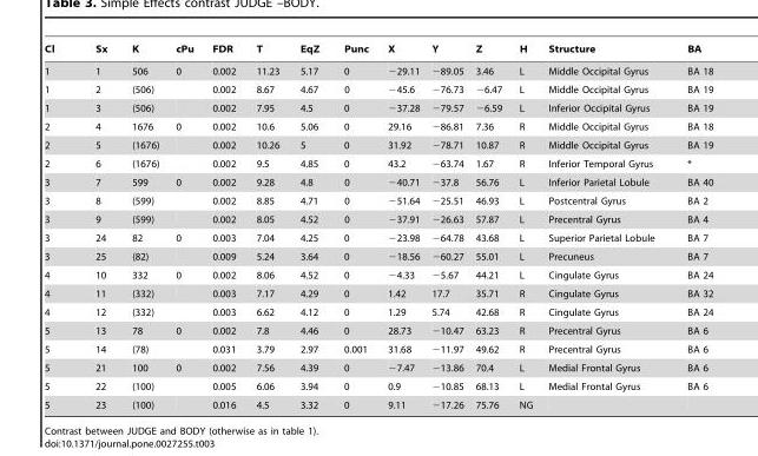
<table><thead><tr><td>Cl</td><td>Sx</td><td>K</td><td>cPu</td><td>FDR</td><td>T</td><td>EqZ</td><td>Punc</td><td>X</td><td>Y</td><td>Z</td><td>H</td><td>Structure</td><td>BA</td></tr></thead><tbody><tr><td>1</td><td>1</td><td>506</td><td>0</td><td>0.002</td><td>11.23</td><td>5.17</td><td>0</td><td>−29.11</td><td>−89.05</td><td>3.46</td><td>L</td><td>Middle Occipital Gyrus</td><td>BA 18</td></tr><tr><td>1</td><td>2</td><td>(506)</td><td></td><td>0.002</td><td>8.67</td><td>4.67</td><td>0</td><td>−45.6</td><td>−76.73</td><td>−6.47</td><td>L</td><td>Middle Occipital Gyrus</td><td>BA 19</td></tr><tr><td>1</td><td>3</td><td>(506)</td><td></td><td>0.002</td><td>7.95</td><td>4.5</td><td>0</td><td>−37.28</td><td>−79.57</td><td>−6.59</td><td>L</td><td>Inferior Occipital Gyrus</td><td>BA 19</td></tr><tr><td>2</td><td>4</td><td>1676</td><td>0</td><td>0.002</td><td>10.6</td><td>5.06</td><td>0</td><td>29.16</td><td>−86.81</td><td>7.36</td><td>R</td><td>Middle Occipital Gyrus</td><td>BA 18</td></tr><tr><td>2</td><td>5</td><td>(1676)</td><td></td><td>0.002</td><td>10.26</td><td>5</td><td>0</td><td>31.92</td><td>−78.71</td><td>10.87</td><td>R</td><td>Middle Occipital Gyrus</td><td>BA 19</td></tr><tr><td>2</td><td>6</td><td>(1676)</td><td></td><td>0.002</td><td>9.5</td><td>4.85</td><td>0</td><td>43.2</td><td>−63.74</td><td>1.67</td><td>R</td><td>Inferior Temporal Gyrus</td><td>*</td></tr><tr><td>3</td><td>7</td><td>599</td><td>0</td><td>0.002</td><td>9.28</td><td>4.8</td><td>0</td><td>−40.71</td><td>−37.8</td><td>56.76</td><td>L</td><td>Inferior Parietal Lobule</td><td>BA 40</td></tr><tr><td>3</td><td>8</td><td>(599)</td><td></td><td>0.002</td><td>8.85</td><td>4.71</td><td>0</td><td>−51.64</td><td>−25.51</td><td>46.93</td><td>L</td><td>Postcentral Gyrus</td><td>BA 2</td></tr><tr><td>3</td><td>9</td><td>(599)</td><td></td><td>0.002</td><td>8.05</td><td>4.52</td><td>0</td><td>−37.91</td><td>−26.63</td><td>57.87</td><td>L</td><td>Precentral Gyrus</td><td>BA 4</td></tr><tr><td>3</td><td>24</td><td>82</td><td>0</td><td>0.003</td><td>7.04</td><td>4.25</td><td>0</td><td>−23.98</td><td>−64.78</td><td>43.68</td><td>L</td><td>Superior Parietal Lobule</td><td>BA 7</td></tr><tr><td>3</td><td>25</td><td>(82)</td><td></td><td>0.009</td><td>5.24</td><td>3.64</td><td>0</td><td>−18.56</td><td>−60.27</td><td>55.01</td><td>L</td><td>Precuneus</td><td>BA 7</td></tr><tr><td>4</td><td>10</td><td>332</td><td>0</td><td>0.002</td><td>8.06</td><td>4.52</td><td>0</td><td>−4.33</td><td>−5.67</td><td>44.21</td><td>L</td><td>Cingulate Gyrus</td><td>BA 24</td></tr><tr><td>4</td><td>11</td><td>(332)</td><td></td><td>0.003</td><td>7.17</td><td>4.29</td><td>0</td><td>1.42</td><td>17.7</td><td>35.71</td><td>R</td><td>Cingulate Gyrus</td><td>BA 32</td></tr><tr><td>4</td><td>12</td><td>(332)</td><td></td><td>0.003</td><td>6.62</td><td>4.12</td><td>0</td><td>1.29</td><td>5.74</td><td>42.68</td><td>R</td><td>Cingulate Gyrus</td><td>BA 24</td></tr><tr><td>5</td><td>13</td><td>78</td><td>0</td><td>0.002</td><td>7.8</td><td>4.46</td><td>0</td><td>28.73</td><td>−10.47</td><td>63.23</td><td>R</td><td>Precentral Gyrus</td><td>BA 6</td></tr><tr><td>5</td><td>14</td><td>(78)</td><td></td><td>0.031</td><td>3.79</td><td>2.97</td><td>0.001</td><td>31.68</td><td>−11.97</td><td>49.62</td><td>R</td><td>Precentral Gyrus</td><td>BA 6</td></tr><tr><td>5</td><td>21</td><td>100</td><td>0</td><td>0.002</td><td>7.56</td><td>4.39</td><td>0</td><td>−7.47</td><td>−13.86</td><td>70.4</td><td>L</td><td>Medial Frontal Gyrus</td><td>BA 6</td></tr><tr><td>5</td><td>22</td><td>(100)</td><td></td><td>0.005</td><td>6.06</td><td>3.94</td><td>0</td><td>0.9</td><td>−10.85</td><td>68.13</td><td>L</td><td>Medial Frontal Gyrus</td><td>BA 6</td></tr><tr><td>5</td><td>23</td><td>(100)</td><td></td><td>0.016</td><td>4.5</td><td>3.32</td><td>0</td><td>9.11</td><td>−17.26</td><td>75.76</td><td>NG</td><td></td><td></td></tr></tbody></table>